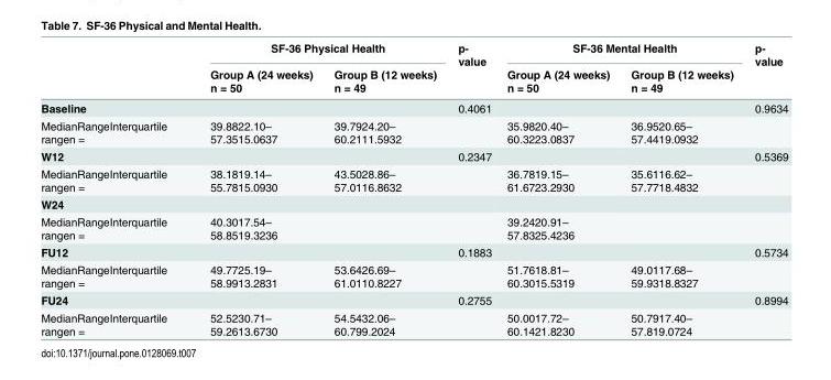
<table><thead><tr><td rowspan="2"></td><td colspan="2">SF-36 Physical Health</td><td rowspan="2">p- value</td><td colspan="2">SF-36 Mental Health</td><td rowspan="2">p- value</td></tr><tr><td>Group A (24 weeks) n = 50</td><td>Group B (12 weeks) n = 49</td><td>Group A (24 weeks) n = 50</td><td>Group B (12 weeks) n = 49</td></tr></thead><tbody><tr><td>Baseline</td><td></td><td></td><td>0.4061</td><td></td><td></td><td>0.9634</td></tr><tr><td>MedianRangeInterquartile rangen =</td><td>39.8822.10– 57.3515.0637</td><td>39.7924.20– 60.2111.5932</td><td></td><td>35.9820.40– 60.3223.0837</td><td>36.9520.65– 57.4419.0932</td><td></td></tr><tr><td>W12</td><td></td><td></td><td>0.2347</td><td></td><td></td><td>0.5369</td></tr><tr><td>MedianRangeInterquartile rangen =</td><td>38.1819.14– 55.7815.0930</td><td>43.5028.86– 57.0116.8632</td><td></td><td>36.7819.15– 61.6723.2930</td><td>35.6116.62– 57.7718.4832</td><td></td></tr><tr><td colspan="7">W24</td></tr><tr><td>MedianRangeInterquartile rangen =</td><td>40.3017.54– 58.8519.3236</td><td></td><td></td><td>39.2420.91– 57.8325.4236</td><td></td><td></td></tr><tr><td>FU12</td><td></td><td></td><td>0.1883</td><td></td><td></td><td>0.5734</td></tr><tr><td>MedianRangeInterquartile rangen =</td><td>49.7725.19– 58.9913.2831</td><td>53.6426.69– 61.0110.8227</td><td></td><td>51.7618.81– 60.3015.5319</td><td>49.0117.68– 59.9318.8327</td><td></td></tr><tr><td>FU24</td><td></td><td></td><td>0.2755</td><td></td><td></td><td>0.8994</td></tr><tr><td>MedianRangeInterquartile rangen =</td><td>52.5230.71– 59.2613.6730</td><td>54.5432.06– 60.799.2024</td><td></td><td>50.0017.72– 60.1421.8230</td><td>50.7917.40– 57.819.0724</td><td></td></tr></tbody></table>